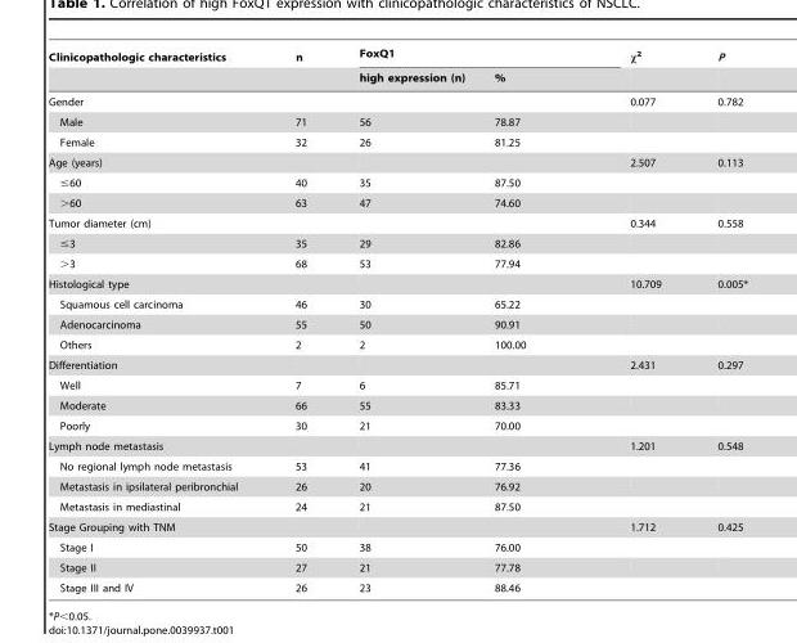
<table><thead><tr><td rowspan="2">Clinicopathologic characteristics</td><td rowspan="2">n</td><td colspan="2">FoxQ1</td><td rowspan="2">χ<sup>2</sup></td><td rowspan="2">P</td></tr><tr><td>high expression (n)</td><td>%</td></tr></thead><tbody><tr><td>Gender</td><td></td><td></td><td></td><td>0.077</td><td>0.782</td></tr><tr><td>Male</td><td>71</td><td>56</td><td>78.87</td><td></td><td></td></tr><tr><td>Female</td><td>32</td><td>26</td><td>81.25</td><td></td><td></td></tr><tr><td>Age (years)</td><td></td><td></td><td></td><td>2.507</td><td>0.113</td></tr><tr><td>≤60</td><td>40</td><td>35</td><td>87.50</td><td></td><td></td></tr><tr><td>&gt;60</td><td>63</td><td>47</td><td>74.60</td><td></td><td></td></tr><tr><td>Tumor diameter (cm)</td><td></td><td></td><td></td><td>0.344</td><td>0.558</td></tr><tr><td>≤3</td><td>35</td><td>29</td><td>82.86</td><td></td><td></td></tr><tr><td>&gt;3</td><td>68</td><td>53</td><td>77.94</td><td></td><td></td></tr><tr><td>Histological type</td><td></td><td></td><td></td><td>10.709</td><td>0.005*</td></tr><tr><td>Squamous cell carcinoma</td><td>46</td><td>30</td><td>65.22</td><td></td><td></td></tr><tr><td>Adenocarcinoma</td><td>55</td><td>50</td><td>90.91</td><td></td><td></td></tr><tr><td>Others</td><td>2</td><td>2</td><td>100.00</td><td></td><td></td></tr><tr><td>Differentiation</td><td></td><td></td><td></td><td>2.431</td><td>0.297</td></tr><tr><td>Well</td><td>7</td><td>6</td><td>85.71</td><td></td><td></td></tr><tr><td>Moderate</td><td>66</td><td>55</td><td>83.33</td><td></td><td></td></tr><tr><td>Poorly</td><td>30</td><td>21</td><td>70.00</td><td></td><td></td></tr><tr><td>Lymph node metastasis</td><td></td><td></td><td></td><td>1.201</td><td>0.548</td></tr><tr><td>No regional lymph node metastasis</td><td>53</td><td>41</td><td>77.36</td><td></td><td></td></tr><tr><td>Metastasis in ipsilateral peribronchial</td><td>26</td><td>20</td><td>76.92</td><td></td><td></td></tr><tr><td>Metastasis in mediastinal</td><td>24</td><td>21</td><td>87.50</td><td></td><td></td></tr><tr><td>Stage Grouping with TNM</td><td></td><td></td><td></td><td>1.712</td><td>0.425</td></tr><tr><td>Stage I</td><td>50</td><td>38</td><td>76.00</td><td></td><td></td></tr><tr><td>Stage II</td><td>27</td><td>21</td><td>77.78</td><td></td><td></td></tr><tr><td>Stage III and IV</td><td>26</td><td>23</td><td>88.46</td><td></td><td></td></tr></tbody></table>